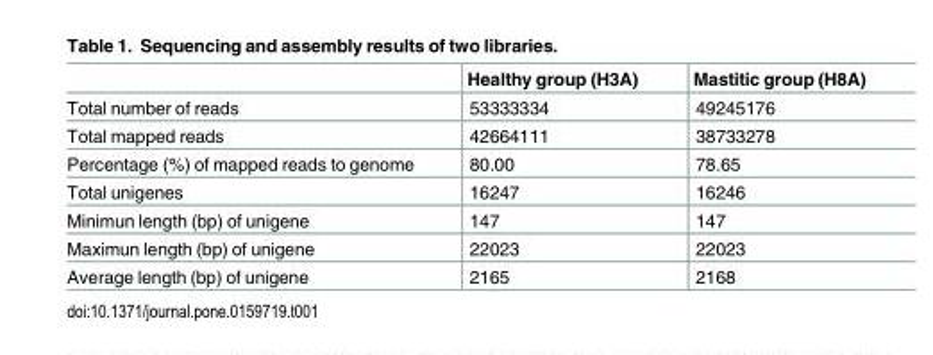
<table><thead><tr><td></td><td>Healthy group (H3A)</td><td>Mastitic group (H8A)</td></tr></thead><tbody><tr><td>Total number of reads</td><td>53333334</td><td>49245176</td></tr><tr><td>Total mapped reads</td><td>42664111</td><td>38733278</td></tr><tr><td>Percentage (%) of mapped reads to genome</td><td>80.00</td><td>78.65</td></tr><tr><td>Total unigenes</td><td>16247</td><td>16246</td></tr><tr><td>Minimun length (bp) of unigene</td><td>147</td><td>147</td></tr><tr><td>Maximun length (bp) of unigene</td><td>22023</td><td>22023</td></tr><tr><td>Average length (bp) of unigene</td><td>2165</td><td>2168</td></tr></tbody></table>